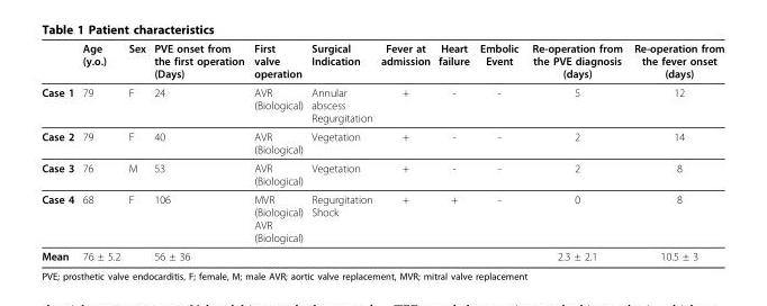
<table><thead><tr><td></td><td>Age (y.o.)</td><td>Sex</td><td>PVE onset from the first operation (Days)</td><td>First valve operation</td><td>Surgical Indication</td><td>Fever at admission</td><td>Heart failure</td><td>Embolic Event</td><td>Re-operation from the PVE diagnosis (days)</td><td>Re-operation from the fever onset (days)</td></tr></thead><tbody><tr><td>Case 1</td><td>79</td><td>F</td><td>24</td><td>AVR (Biological)</td><td>Annular abscess Regurgitation</td><td>+</td><td>-</td><td>-</td><td>5</td><td>12</td></tr><tr><td>Case 2</td><td>79</td><td>F</td><td>40</td><td>AVR (Biological)</td><td>Vegetation</td><td>+</td><td>-</td><td>-</td><td>2</td><td>14</td></tr><tr><td>Case 3</td><td>76</td><td>M</td><td>53</td><td>AVR (Biological)</td><td>Vegetation</td><td>+</td><td>-</td><td>-</td><td>2</td><td>8</td></tr><tr><td>Case 4</td><td>68</td><td>F</td><td>106</td><td>MVR (Biological) AVR (Biological)</td><td>Regurgitation Shock</td><td>+</td><td>+</td><td>-</td><td>0</td><td>8</td></tr><tr><td>Mean</td><td>76 ± 5.2</td><td></td><td>56 ± 36</td><td></td><td></td><td></td><td></td><td></td><td>2.3 ± 2.1</td><td>10.5 ± 3</td></tr></tbody></table>